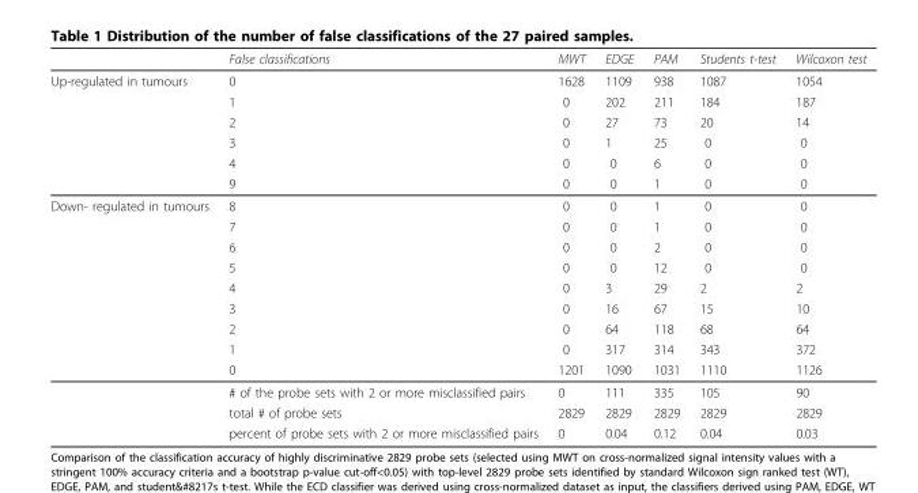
<table><thead><tr><td></td><td>False classifications</td><td>MWT</td><td>EDGE</td><td>PAM</td><td>Students t-test</td><td>Wilcoxon test</td></tr></thead><tbody><tr><td rowspan="6">Up-regulated in tumours</td><td>0</td><td>1628</td><td>1109</td><td>938</td><td>1087</td><td>1054</td></tr><tr><td>1</td><td>0</td><td>202</td><td>211</td><td>184</td><td>187</td></tr><tr><td>2</td><td>0</td><td>27</td><td>73</td><td>20</td><td>14</td></tr><tr><td>3</td><td>0</td><td>1</td><td>25</td><td>0</td><td>0</td></tr><tr><td>4</td><td>0</td><td>0</td><td>6</td><td>0</td><td>0</td></tr><tr><td>9</td><td>0</td><td>0</td><td>1</td><td>0</td><td>0</td></tr><tr><td rowspan="12">Down- regulated in tumours</td><td>8</td><td>0</td><td>0</td><td>1</td><td>0</td><td>0</td></tr><tr><td>7</td><td>0</td><td>0</td><td>1</td><td>0</td><td>0</td></tr><tr><td>6</td><td>0</td><td>0</td><td>2</td><td>0</td><td>0</td></tr><tr><td>5</td><td>0</td><td>0</td><td>12</td><td>0</td><td>0</td></tr><tr><td>4</td><td>0</td><td>3</td><td>29</td><td>2</td><td>2</td></tr><tr><td>3</td><td>0</td><td>16</td><td>67</td><td>15</td><td>10</td></tr><tr><td>2</td><td>0</td><td>64</td><td>118</td><td>68</td><td>64</td></tr><tr><td>1</td><td>0</td><td>317</td><td>314</td><td>343</td><td>372</td></tr><tr><td>0</td><td>1201</td><td>1090</td><td>1031</td><td>1110</td><td>1126</td></tr><tr><td># of the probe sets with 2 or more misclassified pairs</td><td>0</td><td>111</td><td>335</td><td>105</td><td>90</td></tr><tr><td>total # of probe sets</td><td>2829</td><td>2829</td><td>2829</td><td>2829</td><td>2829</td></tr><tr><td>percent of probe sets with 2 or more misclassified pairs</td><td>0</td><td>0.04</td><td>0.12</td><td>0.04</td><td>0.03</td></tr></tbody></table>